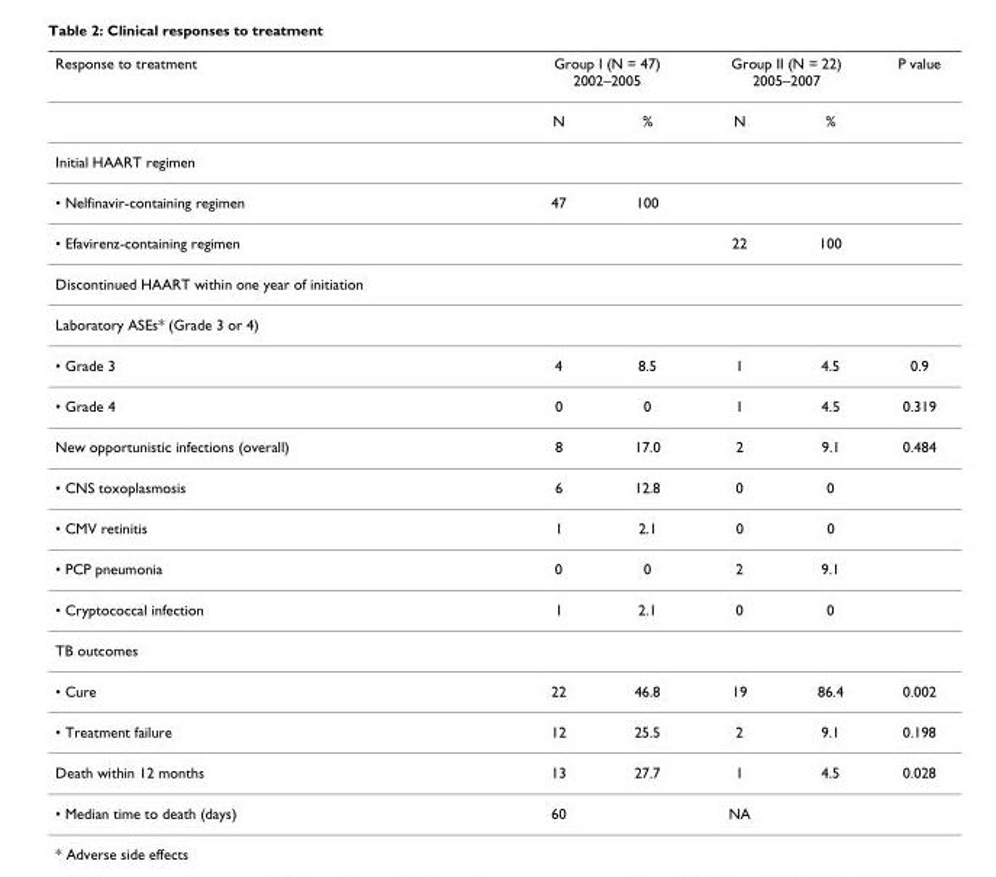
<table><thead><tr><td rowspan="2">Response to treatment</td><td colspan="2">Group I (N = 47) 2002–2005</td><td colspan="2">Group II (N = 22) 2005–2007</td><td rowspan="2">P value</td></tr><tr><td>N</td><td>%</td><td>N</td><td>%</td></tr></thead><tbody><tr><td colspan="6">Initial HAART regimen</td></tr><tr><td>• Nelfinavir-containing regimen</td><td>47</td><td>100</td><td></td><td></td><td></td></tr><tr><td>• Efavirenz-containing regimen</td><td></td><td></td><td>22</td><td>100</td><td></td></tr><tr><td colspan="6">Discontinued HAART within one year of initiation</td></tr><tr><td colspan="6">Laboratory ASEs* (Grade 3 or 4)</td></tr><tr><td>• Grade 3</td><td>4</td><td>8.5</td><td>1</td><td>4.5</td><td>0.9</td></tr><tr><td>• Grade 4</td><td>0</td><td>0</td><td>1</td><td>4.5</td><td>0.319</td></tr><tr><td>New opportunistic infections (overall)</td><td>8</td><td>17.0</td><td>2</td><td>9.1</td><td>0.484</td></tr><tr><td>• CNS toxoplasmosis</td><td>6</td><td>12.8</td><td>0</td><td>0</td><td></td></tr><tr><td>• CMV retinitis</td><td>1</td><td>2.1</td><td>0</td><td>0</td><td></td></tr><tr><td>• PCP pneumonia</td><td>0</td><td>0</td><td>2</td><td>9.1</td><td></td></tr><tr><td>• Cryptococcal infection</td><td>1</td><td>2.1</td><td>0</td><td>0</td><td></td></tr><tr><td colspan="6">TB outcomes</td></tr><tr><td>• Cure</td><td>22</td><td>46.8</td><td>19</td><td>86.4</td><td>0.002</td></tr><tr><td>• Treatment failure</td><td>12</td><td>25.5</td><td>2</td><td>9.1</td><td>0.198</td></tr><tr><td>Death within 12 months</td><td>13</td><td>27.7</td><td>1</td><td>4.5</td><td>0.028</td></tr><tr><td>• Median time to death (days)</td><td>60</td><td></td><td>NA</td><td></td><td></td></tr></tbody></table>